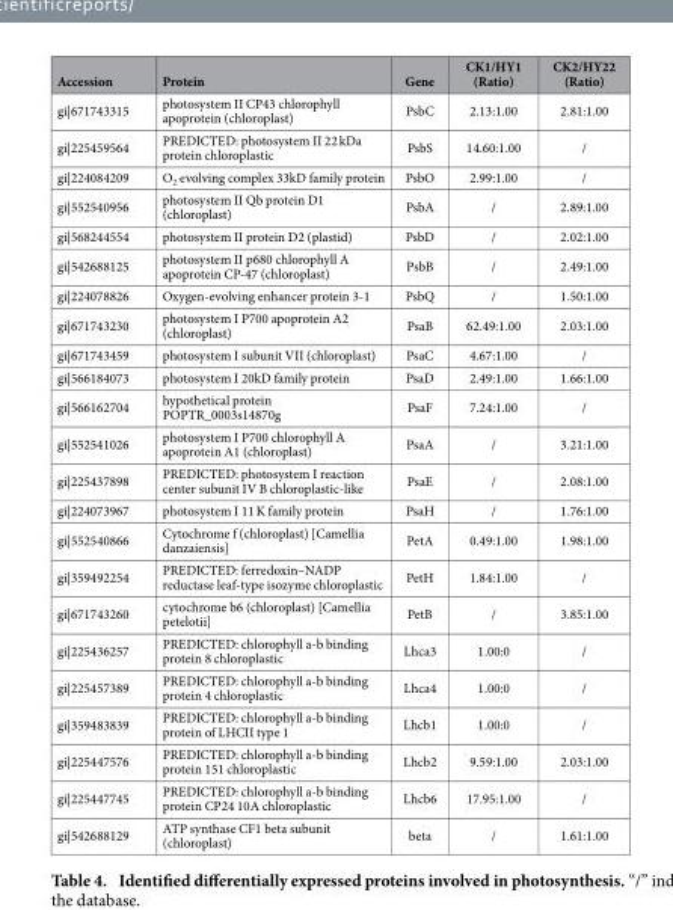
<table><thead><tr><td>Accession</td><td>Protein</td><td>Gene</td><td>CK1/HY1 (Ratio)</td><td>CK2/HY22 (Ratio)</td></tr></thead><tbody><tr><td>gi|671743315</td><td>photosystem II CP43 chlorophyll apoprotein (chloroplast)</td><td>PsbC</td><td>2.13:1.00</td><td>2.81:1.00</td></tr><tr><td>gi|225459564</td><td>PREDICTED: photosystem II 22 kDa protein chloroplastic</td><td>PsbS</td><td>14.60:1.00</td><td>/</td></tr><tr><td>gi|224084209</td><td>O<sub>2</sub> evolving complex 33kD family protein</td><td>PsbO</td><td>2.99:1.00</td><td>/</td></tr><tr><td>gi|552540956</td><td>photosystem II Qb protein D1 (chloroplast)</td><td>PsbA</td><td>/</td><td>2.89:1.00</td></tr><tr><td>gi|568244554</td><td>photosystem II protein D2 (plastid)</td><td>PsbD</td><td>/</td><td>2.02:1.00</td></tr><tr><td>gi|542688125</td><td>photosystem II p680 chlorophyll A apoprotein CP-47 (chloroplast)</td><td>PsbB</td><td>/</td><td>2.49:1.00</td></tr><tr><td>gi|224078826</td><td>Oxygen-evolving enhancer protein 3-1</td><td>PsbQ</td><td>/</td><td>1.50:1.00</td></tr><tr><td>gi|671743230</td><td>photosystem I P700 apoprotein A2 (chloroplast)</td><td>PsaB</td><td>62.49:1.00</td><td>2.03:1.00</td></tr><tr><td>gi|671743459</td><td>photosystem I subunit VII (chloroplast)</td><td>PsaC</td><td>4.67:1.00</td><td>/</td></tr><tr><td>gi|566184073</td><td>photosystem I 20kD family protein</td><td>PsaD</td><td>2.49:1.00</td><td>1.66:1.00</td></tr><tr><td>gi|566162704</td><td>hypothetical protein POPTR_0003s14870g</td><td>PsaF</td><td>7.24:1.00</td><td>/</td></tr><tr><td>gi|552541026</td><td>photosystem I P700 chlorophyll A apoprotein A1 (chloroplast)</td><td>PsaA</td><td>/</td><td>3.21:1.00</td></tr><tr><td>gi|225437898</td><td>PREDICTED: photosystem I reaction center subunit IV B chloroplastic-like</td><td>PsaE</td><td>/</td><td>2.08:1.00</td></tr><tr><td>gi|224073967</td><td>photosystem I 11 K family protein</td><td>PsaH</td><td>/</td><td>1.76:1.00</td></tr><tr><td>gi|552540866</td><td>Cytochrome f (chloroplast) [Camellia danzaiensis]</td><td>PetA</td><td>0.49:1.00</td><td>1.98:1.00</td></tr><tr><td>gi|359492254</td><td>PREDICTED: ferredoxin–NADP reductase leaf-type isozyme chloroplastic</td><td>PetH</td><td>1.84:1.00</td><td>/</td></tr><tr><td>gi|671743260</td><td>cytochrome b6 (chloroplast) [Camellia petelotii]</td><td>PetB</td><td>/</td><td>3.85:1.00</td></tr><tr><td>gi|225436257</td><td>PREDICTED: chlorophyll a-b binding protein 8 chloroplastic</td><td>Lhca3</td><td>1.00:0</td><td>/</td></tr><tr><td>gi|225457389</td><td>PREDICTED: chlorophyll a-b binding protein 4 chloroplastic</td><td>Lhca4</td><td>1.00:0</td><td>/</td></tr><tr><td>gi|359483839</td><td>PREDICTED: chlorophyll a-b binding protein of LHCII type 1</td><td>Lhcb1</td><td>1.00:0</td><td>/</td></tr><tr><td>gi|225447576</td><td>PREDICTED: chlorophyll a-b binding protein 151 chloroplastic</td><td>Lhcb2</td><td>9.59:1.00</td><td>2.03:1.00</td></tr><tr><td>gi|225447745</td><td>PREDICTED: chlorophyll a-b binding protein CP24 10A chloroplastic</td><td>Lhcb6</td><td>17.95:1.00</td><td>/</td></tr><tr><td>gi|542688129</td><td>ATP synthase CF1 beta subunit (chloroplast)</td><td>beta</td><td>/</td><td>1.61:1.00</td></tr></tbody></table>